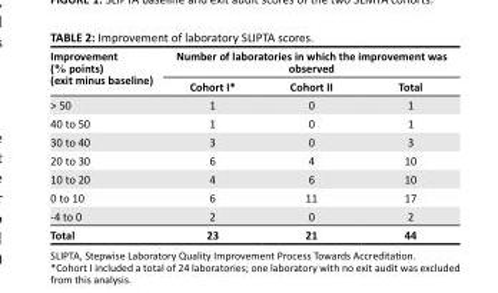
<table><thead><tr><td rowspan="2">Improvement (% points) (exit minus baseline)</td><td colspan="3">Number of laboratories in which the improvement was observed</td></tr><tr><td>Cohort I*</td><td>Cohort II</td><td>Total</td></tr></thead><tbody><tr><td>&gt; 50</td><td>1</td><td>0</td><td>1</td></tr><tr><td>40 to 50</td><td>1</td><td>0</td><td>1</td></tr><tr><td>30 to 40</td><td>3</td><td>0</td><td>3</td></tr><tr><td>20 to 30</td><td>6</td><td>4</td><td>10</td></tr><tr><td>10 to 20</td><td>4</td><td>6</td><td>10</td></tr><tr><td>0 to 10</td><td>6</td><td>11</td><td>17</td></tr><tr><td>-4 to 0</td><td>2</td><td>0</td><td>2</td></tr><tr><td>Total</td><td>23</td><td>21</td><td>44</td></tr></tbody></table>